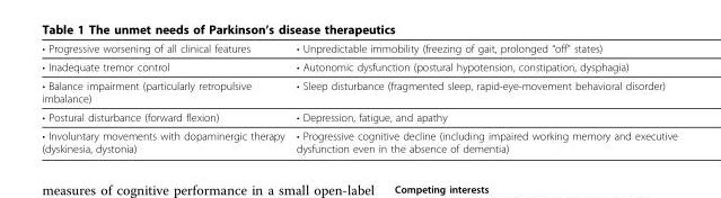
<table><thead><tr><td>• Progressive worsening of all clinical features</td><td>• Unpredictable immobility (freezing of gait, prolonged “off” states)</td></tr></thead><tbody><tr><td>• Inadequate tremor control</td><td>• Autonomic dysfunction (postural hypotension, constipation, dysphagia)</td></tr><tr><td>• Balance impairment (particularly retropulsive imbalance)</td><td>• Sleep disturbance (fragmented sleep, rapid-eye-movement behavioral disorder)</td></tr><tr><td>• Postural disturbance (forward flexion)</td><td>• Depression, fatigue, and apathy</td></tr><tr><td>• Involuntary movements with dopaminergic therapy (dyskinesia, dystonia)</td><td>• Progressive cognitive decline (including impaired working memory and executive dysfunction even in the absence of dementia)</td></tr></tbody></table>